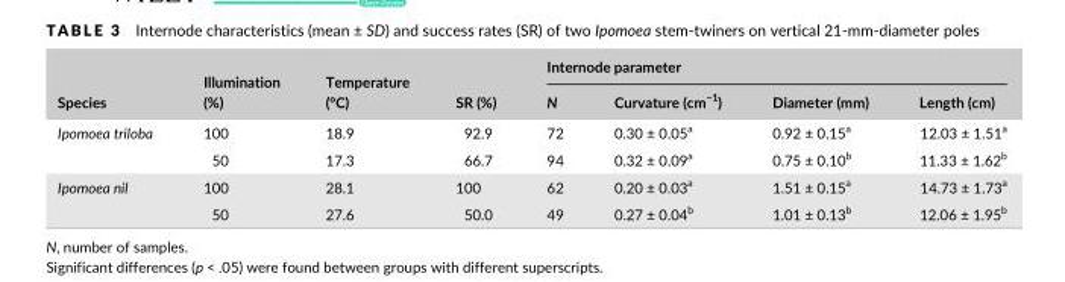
<table><thead><tr><td rowspan="2">Species</td><td rowspan="2">Illumination (%)</td><td rowspan="2">Temperature (°C)</td><td rowspan="2">SR (%)</td><td colspan="4">Internode parameter</td></tr><tr><td>N</td><td>Curvature (cm<sup>−1</sup>)</td><td>Diameter (mm)</td><td>Length (cm)</td></tr></thead><tbody><tr><td rowspan="2">Ipomoea triloba</td><td>100</td><td>18.9</td><td>92.9</td><td>72</td><td>0.30 ± 0.05<sup>a</sup></td><td>0.92 ± 0.15<sup>a</sup></td><td>12.03 ± 1.51<sup>a</sup></td></tr><tr><td>50</td><td>17.3</td><td>66.7</td><td>94</td><td>0.32 ± 0.09<sup>a</sup></td><td>0.75 ± 0.10<sup>b</sup></td><td>11.33 ± 1.62<sup>b</sup></td></tr><tr><td rowspan="2">Ipomoea nil</td><td>100</td><td>28.1</td><td>100</td><td>62</td><td>0.20 ± 0.03<sup>a</sup></td><td>1.51 ± 0.15<sup>a</sup></td><td>14.73 ± 1.73<sup>a</sup></td></tr><tr><td>50</td><td>27.6</td><td>50.0</td><td>49</td><td>0.27 ± 0.04<sup>b</sup></td><td>1.01 ± 0.13<sup>b</sup></td><td>12.06 ± 1.95<sup>b</sup></td></tr></tbody></table>